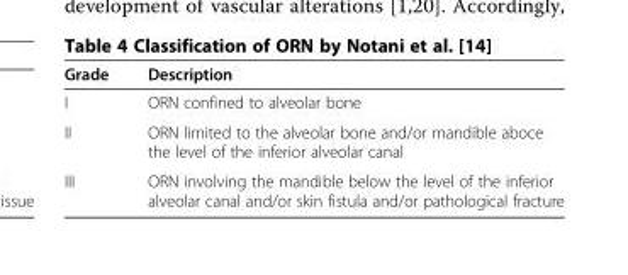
<table><thead><tr><td>Grade</td><td>Description</td></tr></thead><tbody><tr><td>I</td><td>ORN confined to alveolar bone</td></tr><tr><td>II</td><td>ORN limited to the alveolar bone and/or mandible aboce the level of the inferior alveolar canal</td></tr><tr><td>III</td><td>ORN involving the mandible below the level of the inferior alveolar canal and/or skin fistula and/or pathological fracture</td></tr></tbody></table>